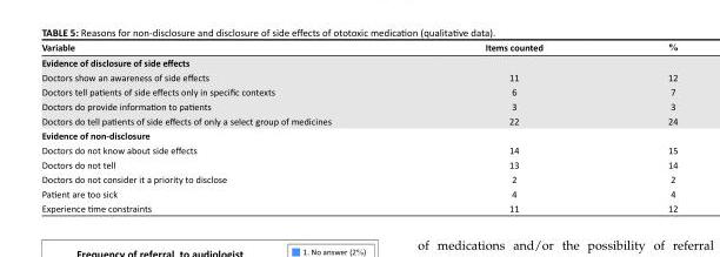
<table><thead><tr><td>Variable</td><td>Items counted</td><td>%</td></tr></thead><tbody><tr><td colspan="3">Evidence of disclosure of side effects</td></tr><tr><td>Doctors show an awareness of side effects</td><td>11</td><td>12</td></tr><tr><td>Doctors tell patients of side effects only in specific contexts</td><td>6</td><td>7</td></tr><tr><td>Doctors do provide information to patients</td><td>3</td><td>3</td></tr><tr><td>Doctors do tell patients of side effects of only a select group of medicines</td><td>22</td><td>24</td></tr><tr><td colspan="3">Evidence of non-disclosure</td></tr><tr><td>Doctors do not know about side effects</td><td>14</td><td>15</td></tr><tr><td>Doctors do not tell</td><td>13</td><td>14</td></tr><tr><td>Doctors do not consider it a priority to disclose</td><td>2</td><td>2</td></tr><tr><td>Patient are too sick</td><td>4</td><td>4</td></tr><tr><td>Experience time constraints</td><td>11</td><td>12</td></tr></tbody></table>